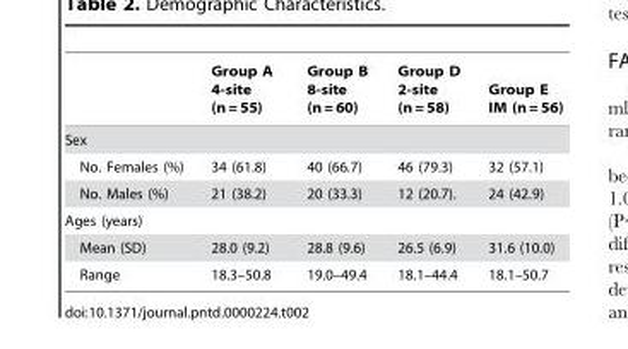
<table><thead><tr><td></td><td>Group A 4-site (n = 55)</td><td>Group B 8-site (n = 60)</td><td>Group D 2-site (n = 58)</td><td>Group E IM (n = 56)</td></tr></thead><tbody><tr><td colspan="5">Sex</td></tr><tr><td>No. Females (%)</td><td>34 (61.8)</td><td>40 (66.7)</td><td>46 (79.3)</td><td>32 (57.1)</td></tr><tr><td>No. Males (%)</td><td>21 (38.2)</td><td>20 (33.3)</td><td>12 (20.7).</td><td>24 (42.9)</td></tr><tr><td colspan="5">Ages (years)</td></tr><tr><td>Mean (SD)</td><td>28.0 (9.2)</td><td>28.8 (9.6)</td><td>26.5 (6.9)</td><td>31.6 (10.0)</td></tr><tr><td>Range</td><td>18.3–50.8</td><td>19.0–49.4</td><td>18.1–44.4</td><td>18.1–50.7</td></tr></tbody></table>